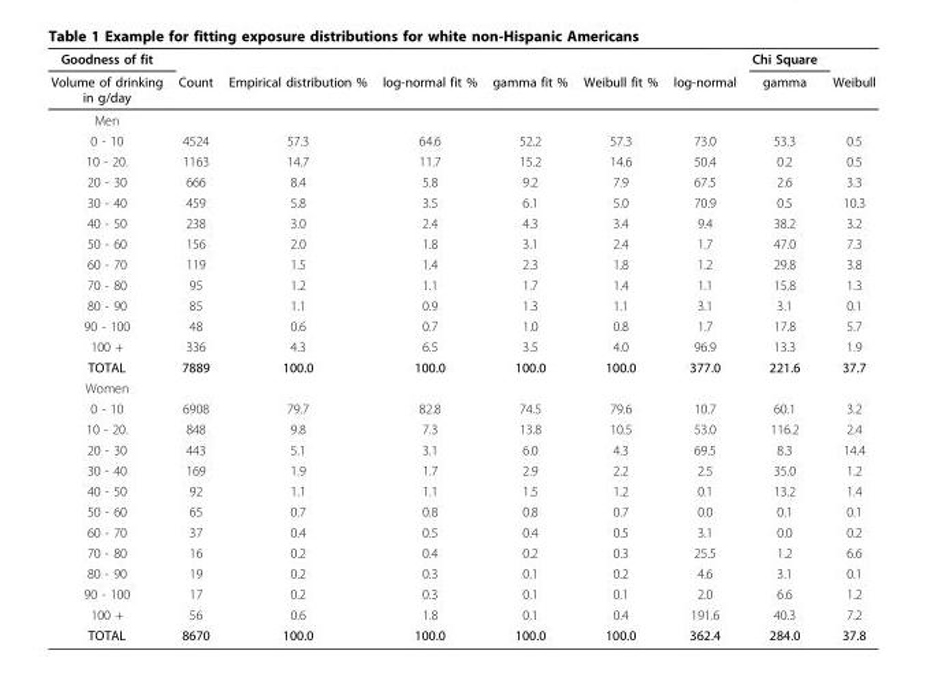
<table><thead><tr><td rowspan="2">Goodness of fit Volume of drinking in g/day</td><td rowspan="2">Count</td><td rowspan="2">Empirical distribution %</td><td rowspan="2">log-normal fit %</td><td rowspan="2">gamma fit %</td><td rowspan="2">Weibull fit %</td><td rowspan="2">log-normal</td><td rowspan="2">Chi Square gamma</td><td rowspan="2">Weibull</td></tr><tr></tr></thead><tbody><tr><td colspan="9">Men</td></tr><tr><td>0 - 10</td><td>4524</td><td>57.3</td><td>64.6</td><td>52.2</td><td>57.3</td><td>73.0</td><td>53.3</td><td>0.5</td></tr><tr><td>10 - 20.</td><td>1163</td><td>14.7</td><td>11.7</td><td>15.2</td><td>14.6</td><td>50.4</td><td>0.2</td><td>0.5</td></tr><tr><td>20 - 30</td><td>666</td><td>8.4</td><td>5.8</td><td>9.2</td><td>7.9</td><td>67.5</td><td>2.6</td><td>3.3</td></tr><tr><td>30 - 40</td><td>459</td><td>5.8</td><td>3.5</td><td>6.1</td><td>5.0</td><td>70.9</td><td>0.5</td><td>10.3</td></tr><tr><td>40 - 50</td><td>238</td><td>3.0</td><td>2.4</td><td>4.3</td><td>3.4</td><td>9.4</td><td>38.2</td><td>3.2</td></tr><tr><td>50 - 60</td><td>156</td><td>2.0</td><td>1.8</td><td>3.1</td><td>2.4</td><td>1.7</td><td>47.0</td><td>7.3</td></tr><tr><td>60 - 70</td><td>119</td><td>1.5</td><td>1.4</td><td>2.3</td><td>1.8</td><td>1.2</td><td>29.8</td><td>3.8</td></tr><tr><td>70 - 80</td><td>95</td><td>1.2</td><td>1.1</td><td>1.7</td><td>1.4</td><td>1.1</td><td>15.8</td><td>1.3</td></tr><tr><td>80 - 90</td><td>85</td><td>1.1</td><td>0.9</td><td>1.3</td><td>1.1</td><td>3.1</td><td>3.1</td><td>0.1</td></tr><tr><td>90 - 100</td><td>48</td><td>0.6</td><td>0.7</td><td>1.0</td><td>0.8</td><td>1.7</td><td>17.8</td><td>5.7</td></tr><tr><td>100 +</td><td>336</td><td>4.3</td><td>6.5</td><td>3.5</td><td>4.0</td><td>96.9</td><td>13.3</td><td>1.9</td></tr><tr><td>TOTAL</td><td>7889</td><td>100.0</td><td>100.0</td><td>100.0</td><td>100.0</td><td>377.0</td><td>221.6</td><td>37.7</td></tr><tr><td colspan="9">Women</td></tr><tr><td>0 - 10</td><td>6908</td><td>79.7</td><td>82.8</td><td>74.5</td><td>79.6</td><td>10.7</td><td>60.1</td><td>3.2</td></tr><tr><td>10 - 20.</td><td>848</td><td>9.8</td><td>7.3</td><td>13.8</td><td>10.5</td><td>53.0</td><td>116.2</td><td>2.4</td></tr><tr><td>20 - 30</td><td>443</td><td>5.1</td><td>3.1</td><td>6.0</td><td>4.3</td><td>69.5</td><td>8.3</td><td>14.4</td></tr><tr><td>30 - 40</td><td>169</td><td>1.9</td><td>1.7</td><td>2.9</td><td>2.2</td><td>2.5</td><td>35.0</td><td>1.2</td></tr><tr><td>40 - 50</td><td>92</td><td>1.1</td><td>1.1</td><td>1.5</td><td>1.2</td><td>0.1</td><td>13.2</td><td>1.4</td></tr><tr><td>50 - 60</td><td>65</td><td>0.7</td><td>0.8</td><td>0.8</td><td>0.7</td><td>0.0</td><td>0.1</td><td>0.1</td></tr><tr><td>60 - 70</td><td>37</td><td>0.4</td><td>0.5</td><td>0.4</td><td>0.5</td><td>3.1</td><td>0.0</td><td>0.2</td></tr><tr><td>70 - 80</td><td>16</td><td>0.2</td><td>0.4</td><td>0.2</td><td>0.3</td><td>25.5</td><td>1.2</td><td>6.6</td></tr><tr><td>80 - 90</td><td>19</td><td>0.2</td><td>0.3</td><td>0.1</td><td>0.2</td><td>4.6</td><td>3.1</td><td>0.1</td></tr><tr><td>90 - 100</td><td>17</td><td>0.2</td><td>0.3</td><td>0.1</td><td>0.1</td><td>2.0</td><td>6.6</td><td>1.2</td></tr><tr><td>100 +</td><td>56</td><td>0.6</td><td>1.8</td><td>0.1</td><td>0.4</td><td>191.6</td><td>40.3</td><td>7.2</td></tr><tr><td>TOTAL</td><td>8670</td><td>100.0</td><td>100.0</td><td>100.0</td><td>100.0</td><td>362.4</td><td>284.0</td><td>37.8</td></tr></tbody></table>